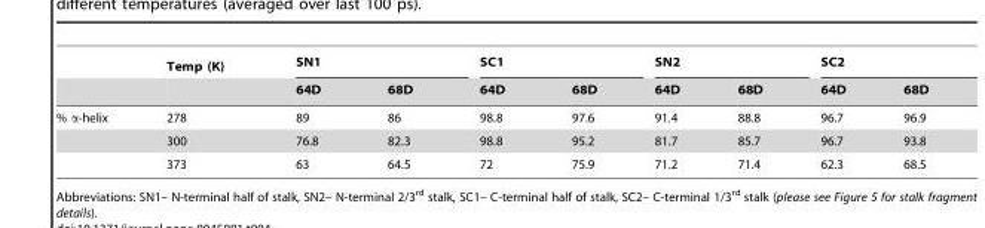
<table><thead><tr><td rowspan="2"></td><td rowspan="2">Temp (K)</td><td colspan="2">SN1</td><td colspan="2">SC1</td><td colspan="2">SN2</td><td colspan="2">SC2</td></tr><tr><td>64D</td><td>68D</td><td>64D</td><td>68D</td><td>64D</td><td>68D</td><td>64D</td><td>68D</td></tr></thead><tbody><tr><td rowspan="3">% α-helix</td><td>278</td><td>89</td><td>86</td><td>98.8</td><td>97.6</td><td>91.4</td><td>88.8</td><td>96.7</td><td>96.9</td></tr><tr><td>300</td><td>76.8</td><td>82.3</td><td>98.8</td><td>95.2</td><td>81.7</td><td>85.7</td><td>96.7</td><td>93.8</td></tr><tr><td>373</td><td>63</td><td>64.5</td><td>72</td><td>75.9</td><td>71.2</td><td>71.4</td><td>62.3</td><td>68.5</td></tr></tbody></table>